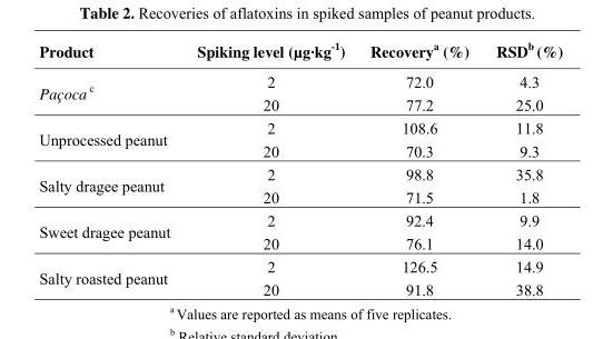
<table><thead><tr><td>Product</td><td>Spiking level (µg·kg<sup>-1</sup>)</td><td>Recovery<sup>a</sup> (%)</td><td>RSD<sup>b</sup> (%)</td></tr></thead><tbody><tr><td rowspan="2">Paçoca <sup>c</sup></td><td>2</td><td>72.0</td><td>4.3</td></tr><tr><td>20</td><td>77.2</td><td>25.0</td></tr><tr><td rowspan="2">Unprocessed peanut</td><td>2</td><td>108.6</td><td>11.8</td></tr><tr><td>20</td><td>70.3</td><td>9.3</td></tr><tr><td rowspan="2">Salty dragee peanut</td><td>2</td><td>98.8</td><td>35.8</td></tr><tr><td>20</td><td>71.5</td><td>1.8</td></tr><tr><td rowspan="2">Sweet dragee peanut</td><td>2</td><td>92.4</td><td>9.9</td></tr><tr><td>20</td><td>76.1</td><td>14.0</td></tr><tr><td rowspan="2">Salty roasted peanut</td><td>2</td><td>126.5</td><td>14.9</td></tr><tr><td>20</td><td>91.8</td><td>38.8</td></tr></tbody></table>